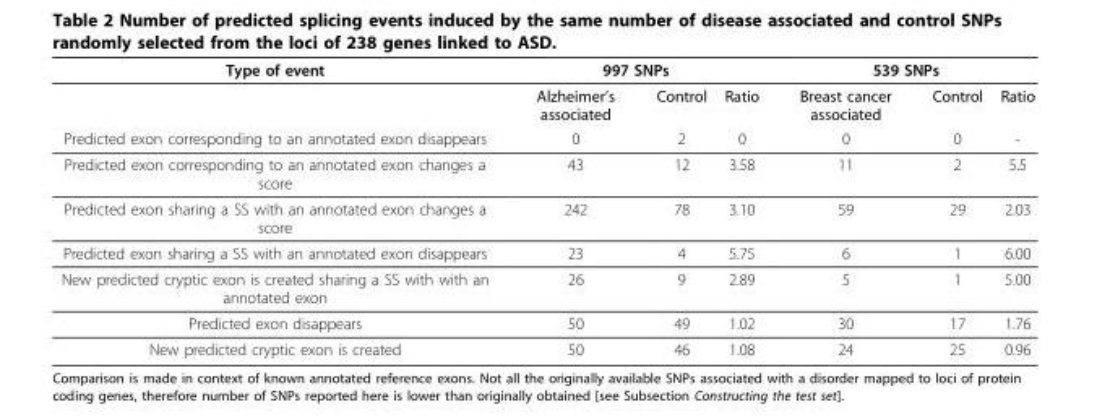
<table><thead><tr><td rowspan="2">Type of event</td><td colspan="3">997 SNPs</td><td colspan="3">539 SNPs</td></tr><tr><td>Alzheimer’s associated</td><td>Control</td><td>Ratio</td><td>Breast cancer associated</td><td>Control</td><td>Ratio</td></tr></thead><tbody><tr><td>Predicted exon corresponding to an annotated exon disappears</td><td>0</td><td>2</td><td>0</td><td>0</td><td>0</td><td>-</td></tr><tr><td>Predicted exon corresponding to an annotated exon changes a score</td><td>43</td><td>12</td><td>3.58</td><td>11</td><td>2</td><td>5.5</td></tr><tr><td>Predicted exon sharing a SS with an annotated exon changes a score</td><td>242</td><td>78</td><td>3.10</td><td>59</td><td>29</td><td>2.03</td></tr><tr><td>Predicted exon sharing a SS with an annotated exon disappears</td><td>23</td><td>4</td><td>5.75</td><td>6</td><td>1</td><td>6.00</td></tr><tr><td>New predicted cryptic exon is created sharing a SS with with an annotated exon</td><td>26</td><td>9</td><td>2.89</td><td>5</td><td>1</td><td>5.00</td></tr><tr><td>Predicted exon disappears</td><td>50</td><td>49</td><td>1.02</td><td>30</td><td>17</td><td>1.76</td></tr><tr><td>New predicted cryptic exon is created</td><td>50</td><td>46</td><td>1.08</td><td>24</td><td>25</td><td>0.96</td></tr></tbody></table>